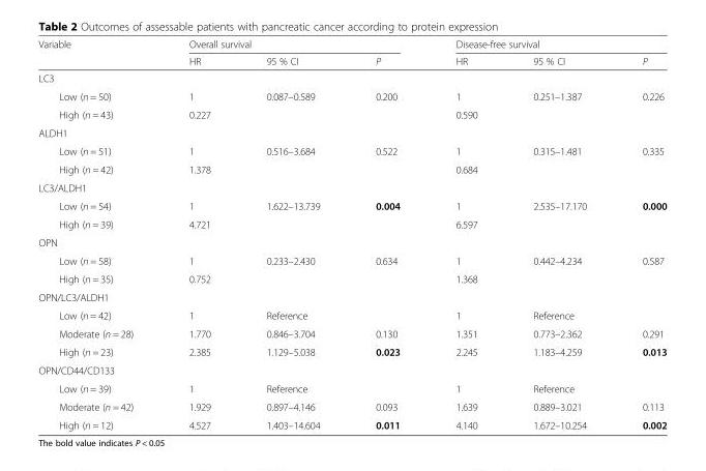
<table><thead><tr><td rowspan="2">Variable</td><td colspan="3">Overall survival</td><td colspan="3">Disease-free survival</td></tr><tr><td>HR</td><td>95 % CI</td><td>P</td><td>HR</td><td>95 % CI</td><td>P</td></tr></thead><tbody><tr><td colspan="7">LC3</td></tr><tr><td>Low (n = 50)</td><td>1</td><td>0.087–0.589</td><td>0.200</td><td>1</td><td>0.251–1.387</td><td>0.226</td></tr><tr><td>High (n = 43)</td><td>0.227</td><td></td><td></td><td>0.590</td><td></td><td></td></tr><tr><td colspan="7">ALDH1</td></tr><tr><td>Low (n = 51)</td><td>1</td><td>0.516–3.684</td><td>0.522</td><td>1</td><td>0.315–1.481</td><td>0.335</td></tr><tr><td>High (n = 42)</td><td>1.378</td><td></td><td></td><td>0.684</td><td></td><td></td></tr><tr><td colspan="7">LC3/ALDH1</td></tr><tr><td>Low (n = 54)</td><td>1</td><td>1.622–13.739</td><td>0.004</td><td>1</td><td>2.535–17.170</td><td>0.000</td></tr><tr><td>High (n = 39)</td><td>4.721</td><td></td><td></td><td>6.597</td><td></td><td></td></tr><tr><td colspan="7">OPN</td></tr><tr><td>Low (n = 58)</td><td>1</td><td>0.233–2.430</td><td>0.634</td><td>1</td><td>0.442–4.234</td><td>0.587</td></tr><tr><td>High (n = 35)</td><td>0.752</td><td></td><td></td><td>1.368</td><td></td><td></td></tr><tr><td colspan="7">OPN/LC3/ALDH1</td></tr><tr><td>Low (n = 42)</td><td>1</td><td>Reference</td><td></td><td>1</td><td>Reference</td><td></td></tr><tr><td>Moderate (n = 28)</td><td>1.770</td><td>0.846–3.704</td><td>0.130</td><td>1.351</td><td>0.773–2.362</td><td>0.291</td></tr><tr><td>High (n = 23)</td><td>2.385</td><td>1.129–5.038</td><td>0.023</td><td>2.245</td><td>1.183–4.259</td><td>0.013</td></tr><tr><td colspan="7">OPN/CD44/CD133</td></tr><tr><td>Low (n = 39)</td><td>1</td><td>Reference</td><td></td><td>1</td><td>Reference</td><td></td></tr><tr><td>Moderate (n = 42)</td><td>1.929</td><td>0.897–4.146</td><td>0.093</td><td>1.639</td><td>0.889–3.021</td><td>0.113</td></tr><tr><td>High (n = 12)</td><td>4.527</td><td>1.403–14.604</td><td>0.011</td><td>4.140</td><td>1.672–10.254</td><td>0.002</td></tr></tbody></table>